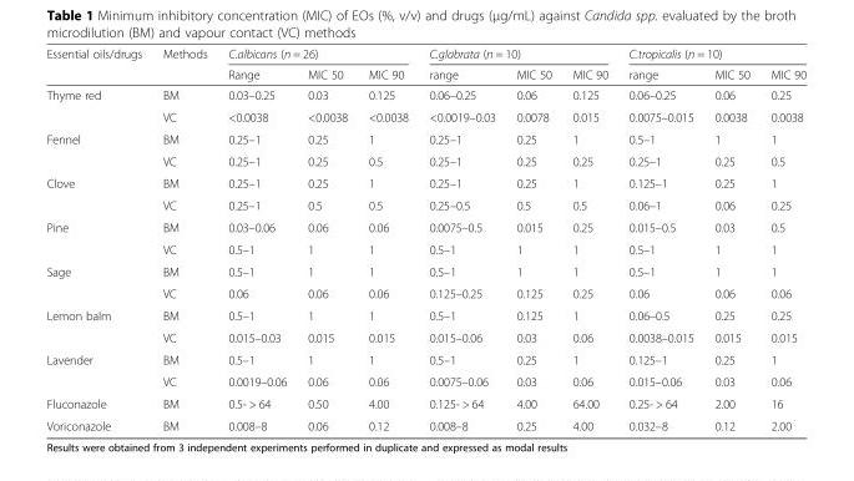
<table><thead><tr><td rowspan="2">Essential oils/drugs</td><td rowspan="2">Methods</td><td colspan="3">C.albicans (n = 26)</td><td colspan="3">C.glabrata (n = 10)</td><td colspan="3">C.tropicalis (n = 10)</td></tr><tr><td>Range</td><td>MIC 50</td><td>MIC 90</td><td>range</td><td>MIC 50</td><td>MIC 90</td><td>range</td><td>MIC 50</td><td>MIC 90</td></tr></thead><tbody><tr><td rowspan="2">Thyme red</td><td>BM</td><td>0.03–0.25</td><td>0.03</td><td>0.125</td><td>0.06–0.25</td><td>0.06</td><td>0.125</td><td>0.06–0.25</td><td>0.06</td><td>0.25</td></tr><tr><td>VC</td><td>&lt;0.0038</td><td>&lt;0.0038</td><td>&lt;0.0038</td><td>&lt;0.0019–0.03</td><td>0.0078</td><td>0.015</td><td>0.0075–0.015</td><td>0.0038</td><td>0.0038</td></tr><tr><td rowspan="2">Fennel</td><td>BM</td><td>0.25–1</td><td>0.25</td><td>1</td><td>0.25–1</td><td>0.25</td><td>1</td><td>0.5–1</td><td>1</td><td>1</td></tr><tr><td>VC</td><td>0.25–1</td><td>0.25</td><td>0.5</td><td>0.25–1</td><td>0.25</td><td>0.25</td><td>0.25–1</td><td>0.25</td><td>0.5</td></tr><tr><td rowspan="2">Clove</td><td>BM</td><td>0.25–1</td><td>0.25</td><td>1</td><td>0.25–1</td><td>0.25</td><td>1</td><td>0.125–1</td><td>0.25</td><td>1</td></tr><tr><td>VC</td><td>0.25–1</td><td>0.5</td><td>0.5</td><td>0.25–0.5</td><td>0.5</td><td>0.5</td><td>0.06–1</td><td>0.06</td><td>0.25</td></tr><tr><td rowspan="2">Pine</td><td>BM</td><td>0.03–0.06</td><td>0.06</td><td>0.06</td><td>0.0075–0.5</td><td>0.015</td><td>0.25</td><td>0.015–0.5</td><td>0.03</td><td>0.5</td></tr><tr><td>VC</td><td>0.5–1</td><td>1</td><td>1</td><td>0.5–1</td><td>1</td><td>1</td><td>0.5–1</td><td>1</td><td>1</td></tr><tr><td rowspan="2">Sage</td><td>BM</td><td>0.5–1</td><td>1</td><td>1</td><td>0.5–1</td><td>1</td><td>1</td><td>0.5–1</td><td>1</td><td>1</td></tr><tr><td>VC</td><td>0.06</td><td>0.06</td><td>0.06</td><td>0.125–0.25</td><td>0.125</td><td>0.25</td><td>0.06</td><td>0.06</td><td>0.06</td></tr><tr><td rowspan="2">Lemon balm</td><td>BM</td><td>0.5–1</td><td>1</td><td>1</td><td>0.5–1</td><td>0.125</td><td>1</td><td>0.06–0.5</td><td>0.25</td><td>0.25</td></tr><tr><td>VC</td><td>0.015–0.03</td><td>0.015</td><td>0.015</td><td>0.015–0.06</td><td>0.03</td><td>0.06</td><td>0.0038–0.015</td><td>0.015</td><td>0.015</td></tr><tr><td rowspan="2">Lavender</td><td>BM</td><td>0.5–1</td><td>1</td><td>1</td><td>0.5–1</td><td>0.25</td><td>1</td><td>0.125–1</td><td>0.25</td><td>1</td></tr><tr><td>VC</td><td>0.0019–0.06</td><td>0.06</td><td>0.06</td><td>0.0075–0.06</td><td>0.03</td><td>0.06</td><td>0.015–0.06</td><td>0.03</td><td>0.06</td></tr><tr><td>Fluconazole</td><td>BM</td><td>0.5- &gt; 64</td><td>0.50</td><td>4.00</td><td>0.125- &gt; 64</td><td>4.00</td><td>64.00</td><td>0.25- &gt; 64</td><td>2.00</td><td>16</td></tr><tr><td>Voriconazole</td><td>BM</td><td>0.008–8</td><td>0.06</td><td>0.12</td><td>0.008–8</td><td>0.25</td><td>4.00</td><td>0.032–8</td><td>0.12</td><td>2.00</td></tr></tbody></table>